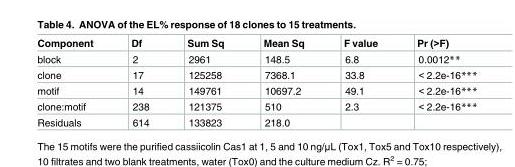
<table><thead><tr><td>Component</td><td>Df</td><td>Sum Sq</td><td>Mean Sq</td><td>F value</td><td>Pr (&gt;F)</td></tr></thead><tbody><tr><td>block</td><td>2</td><td>2961</td><td>148.5</td><td>6.8</td><td>0.0012**</td></tr><tr><td>clone</td><td>17</td><td>125258</td><td>7368.1</td><td>33.8</td><td>&lt; 2.2e-16***</td></tr><tr><td>motif</td><td>14</td><td>149761</td><td>10697.2</td><td>49.1</td><td>&lt; 2.2e-16***</td></tr><tr><td>clone:motif</td><td>238</td><td>121375</td><td>510</td><td>2.3</td><td>&lt; 2.2e-16***</td></tr><tr><td>Residuals</td><td>614</td><td>133823</td><td>218.0</td><td></td><td></td></tr></tbody></table>